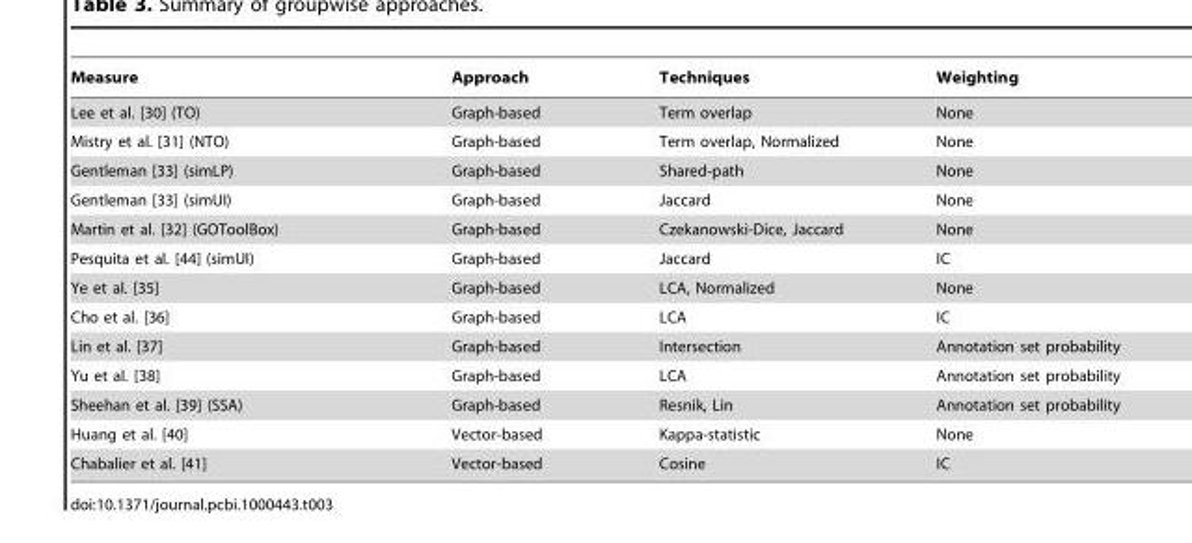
<table><thead><tr><td>Measure</td><td>Approach</td><td>Techniques</td><td>Weighting</td></tr></thead><tbody><tr><td>Lee et al. [30] (TO)</td><td>Graph-based</td><td>Term overlap</td><td>None</td></tr><tr><td>Mistry et al. [31] (NTO)</td><td>Graph-based</td><td>Term overlap, Normalized</td><td>None</td></tr><tr><td>Gentleman [33] (simLP)</td><td>Graph-based</td><td>Shared-path</td><td>None</td></tr><tr><td>Gentleman [33] (simUI)</td><td>Graph-based</td><td>Jaccard</td><td>None</td></tr><tr><td>Martin et al. [32] (GOToolBox)</td><td>Graph-based</td><td>Czekanowski-Dice, Jaccard</td><td>None</td></tr><tr><td>Pesquita et al. [44] (simUI)</td><td>Graph-based</td><td>Jaccard</td><td>IC</td></tr><tr><td>Ye et al. [35]</td><td>Graph-based</td><td>LCA, Normalized</td><td>None</td></tr><tr><td>Cho et al. [36]</td><td>Graph-based</td><td>LCA</td><td>IC</td></tr><tr><td>Lin et al. [37]</td><td>Graph-based</td><td>Intersection</td><td>Annotation set probability</td></tr><tr><td>Yu et al. [38]</td><td>Graph-based</td><td>LCA</td><td>Annotation set probability</td></tr><tr><td>Sheehan et al. [39] (SSA)</td><td>Graph-based</td><td>Resnik, Lin</td><td>Annotation set probability</td></tr><tr><td>Huang et al. [40]</td><td>Vector-based</td><td>Kappa-statistic</td><td>None</td></tr><tr><td>Chabalier et al. [41]</td><td>Vector-based</td><td>Cosine</td><td>IC</td></tr></tbody></table>